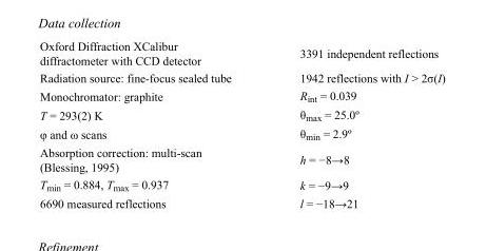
<table><tbody><tr><td>Oxford Diffraction XCalibur diffractometer with CCD detector</td><td>3391 independent reflections</td></tr><tr><td>Radiation source: fine-focus sealed tube</td><td>1942 reflections with I &gt; 2σ(I)</td></tr><tr><td>Monochromator: graphite</td><td>R<sub>int</sub> = 0.039</td></tr><tr><td>T = 293(2) K</td><td>θ<sub>max</sub> = 25.0º</td></tr><tr><td>φ and ω scans</td><td>θ<sub>min</sub> = 2.9º</td></tr><tr><td>Absorption correction: multi-scan (Blessing, 1995)</td><td>h = −8→8</td></tr><tr><td>T<sub>min</sub> = 0.884, T<sub>max</sub> = 0.937</td><td>k = −9→9</td></tr><tr><td>6690 measured reflections</td><td>l = −18→21</td></tr></tbody></table>